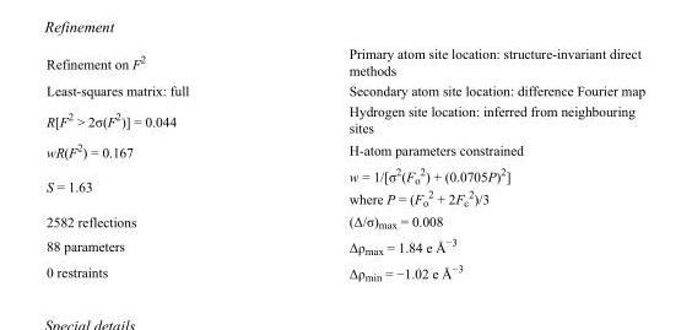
<table><tbody><tr><td>Refinement on F<sup>2</sup></td><td>Primary atom site location: structure-invariant direct methods</td></tr><tr><td>Least-squares matrix: full</td><td>Secondary atom site location: difference Fourier map</td></tr><tr><td>R[F<sup>2</sup> &gt; 2σ(F<sup>2</sup>)] = 0.044</td><td>Hydrogen site location: inferred from neighbouring sites</td></tr><tr><td>wR(F<sup>2</sup>) = 0.167</td><td>H-atom parameters constrained</td></tr><tr><td>S = 1.63</td><td>w = 1/[σ<sup>2</sup>(F<sub>o</sub> <sup>2</sup>) + (0.0705P)<sup>2</sup>] where P = (F<sub>o</sub> <sup>2</sup> + 2F<sub>c</sub> <sup>2</sup>)/3</td></tr><tr><td>2582 reflections</td><td>(Δ/σ)<sub>max</sub> = 0.008</td></tr><tr><td>88 parameters</td><td>Δρ<sub>max</sub> = 1.84 e Å<sup>−3</sup></td></tr><tr><td>0 restraints</td><td>Δρ<sub>min</sub> = −1.02 e Å<sup>−3</sup></td></tr></tbody></table>